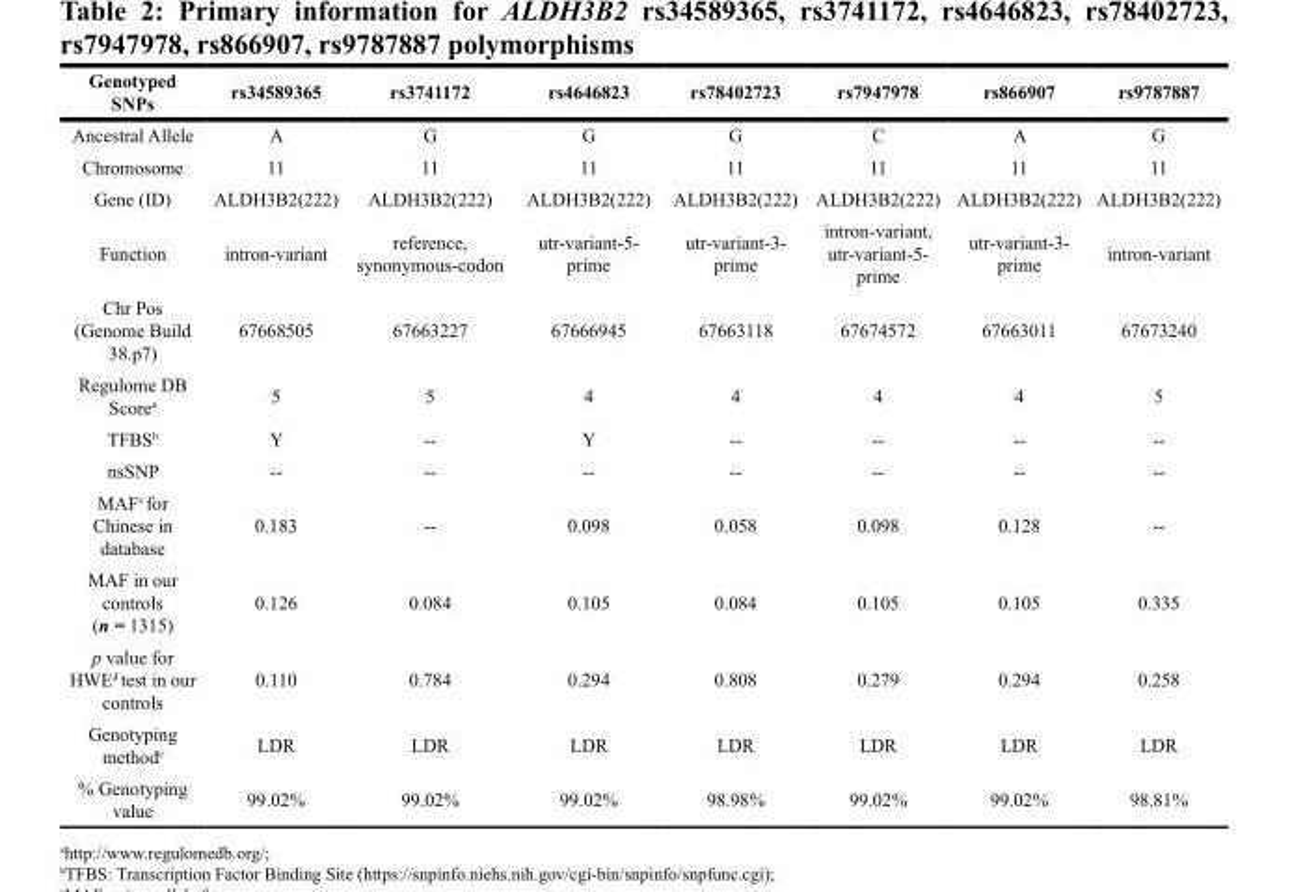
<table><thead><tr><td>Genotyped SNPs</td><td>rs34589365</td><td>rs3741172</td><td>rs4646823</td><td>rs78402723</td><td>rs7947978</td><td>rs866907</td><td>rs9787887</td></tr></thead><tbody><tr><td>Ancestral Allele</td><td>A</td><td>G</td><td>G</td><td>G</td><td>C</td><td>A</td><td>G</td></tr><tr><td>Chromosome</td><td>11</td><td>11</td><td>11</td><td>11</td><td>11</td><td>11</td><td>11</td></tr><tr><td>Gene (ID)</td><td>ALDH3B2(222)</td><td>ALDH3B2(222)</td><td>ALDH3B2(222)</td><td>ALDH3B2(222)</td><td>ALDH3B2(222)</td><td>ALDH3B2(222)</td><td>ALDH3B2(222)</td></tr><tr><td>Function</td><td>intron-variant</td><td>reference, synonymous-codon</td><td>utr-variant-5- prime</td><td>utr-variant-3- prime</td><td>intron-variant, utr-variant-5- prime</td><td>utr-variant-3- prime</td><td>intron-variant</td></tr><tr><td>Chr Pos (Genome Build 38.p7)</td><td>67668505</td><td>67663227</td><td>67666945</td><td>67663118</td><td>67674572</td><td>67663011</td><td>67673240</td></tr><tr><td>Regulome DB Score<sup>a</sup></td><td>5</td><td>5</td><td>4</td><td>4</td><td>4</td><td>4</td><td>5</td></tr><tr><td>TFBS<sup>b</sup></td><td>Y</td><td>--</td><td>Y</td><td>--</td><td>--</td><td>--</td><td>--</td></tr><tr><td>nsSNP</td><td>--</td><td>--</td><td>--</td><td>--</td><td>--</td><td>--</td><td>--</td></tr><tr><td>MAF<sup>c</sup> for Chinese in database</td><td>0.183</td><td>--</td><td>0.098</td><td>0.058</td><td>0.098</td><td>0.128</td><td>--</td></tr><tr><td>MAF in our controls (n = 1315)</td><td>0.126</td><td>0.084</td><td>0.105</td><td>0.084</td><td>0.105</td><td>0.105</td><td>0.335</td></tr><tr><td>p value for HWE<sup>d</sup> test in our controls</td><td>0.110</td><td>0.784</td><td>0.294</td><td>0.808</td><td>0.279</td><td>0.294</td><td>0.258</td></tr><tr><td>Genotyping method<sup>e</sup></td><td>LDR</td><td>LDR</td><td>LDR</td><td>LDR</td><td>LDR</td><td>LDR</td><td>LDR</td></tr><tr><td>% Genotyping value</td><td>99.02%</td><td>99.02%</td><td>99.02%</td><td>98.98%</td><td>99.02%</td><td>99.02%</td><td>98.81%</td></tr></tbody></table>